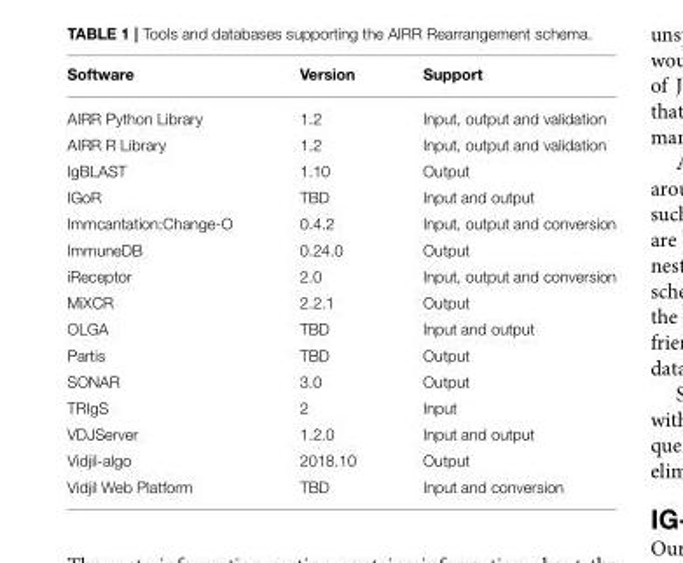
<table><thead><tr><td>Software</td><td>Version</td><td>Support</td></tr></thead><tbody><tr><td>AIRR Python Library</td><td>1.2</td><td>Input, output and validation</td></tr><tr><td>AIRR R Library</td><td>1.2</td><td>Input, output and validation</td></tr><tr><td>IgBLAST</td><td>1.10</td><td>Output</td></tr><tr><td>IGoR</td><td>TBD</td><td>Input and output</td></tr><tr><td>Immcantation:Change-O</td><td>0.4.2</td><td>Input, output and conversion</td></tr><tr><td>ImmuneDB</td><td>0.24.0</td><td>Output</td></tr><tr><td>iReceptor</td><td>2.0</td><td>Input, output and conversion</td></tr><tr><td>MiXCR</td><td>2.2.1</td><td>Output</td></tr><tr><td>OLGA</td><td>TBD</td><td>Input and output</td></tr><tr><td>Partis</td><td>TBD</td><td>Output</td></tr><tr><td>SONAR</td><td>3.0</td><td>Output</td></tr><tr><td>TRIgS</td><td>2</td><td>Input</td></tr><tr><td>VDJServer</td><td>1.2.0</td><td>Input and output</td></tr><tr><td>Vidjil-algo</td><td>2018.10</td><td>Output</td></tr><tr><td>Vidjil Web Platform</td><td>TBD</td><td>Input and conversion</td></tr></tbody></table>